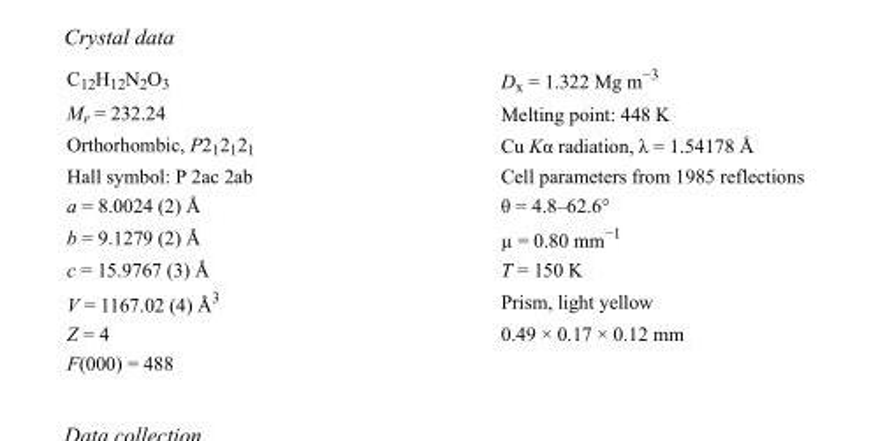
<table><tbody><tr><td>C<sub>12</sub>H<sub>12</sub>N<sub>2</sub>O<sub>3</sub></td><td>D<sub>x</sub> = 1.322 Mg m<sup>−3</sup></td></tr><tr><td>M<sub>r</sub> = 232.24</td><td>Melting point: 448 K</td></tr><tr><td>Orthorhombic, P2<sub>1</sub>2<sub>1</sub>2<sub>1</sub></td><td>Cu Kα radiation, λ = 1.54178 Å</td></tr><tr><td>Hall symbol: P 2ac 2ab</td><td>Cell parameters from 1985 reflections</td></tr><tr><td>a = 8.0024 (2) Å</td><td>θ = 4.8–62.6°</td></tr><tr><td>b = 9.1279 (2) Å</td><td>µ = 0.80 mm<sup>−1</sup></td></tr><tr><td>c = 15.9767 (3) Å</td><td>T = 150 K</td></tr><tr><td>V = 1167.02 (4) Å<sup>3</sup></td><td>Prism, light yellow</td></tr><tr><td>Z = 4</td><td>0.49 × 0.17 × 0.12 mm</td></tr><tr><td>F(000) = 488</td><td></td></tr></tbody></table>